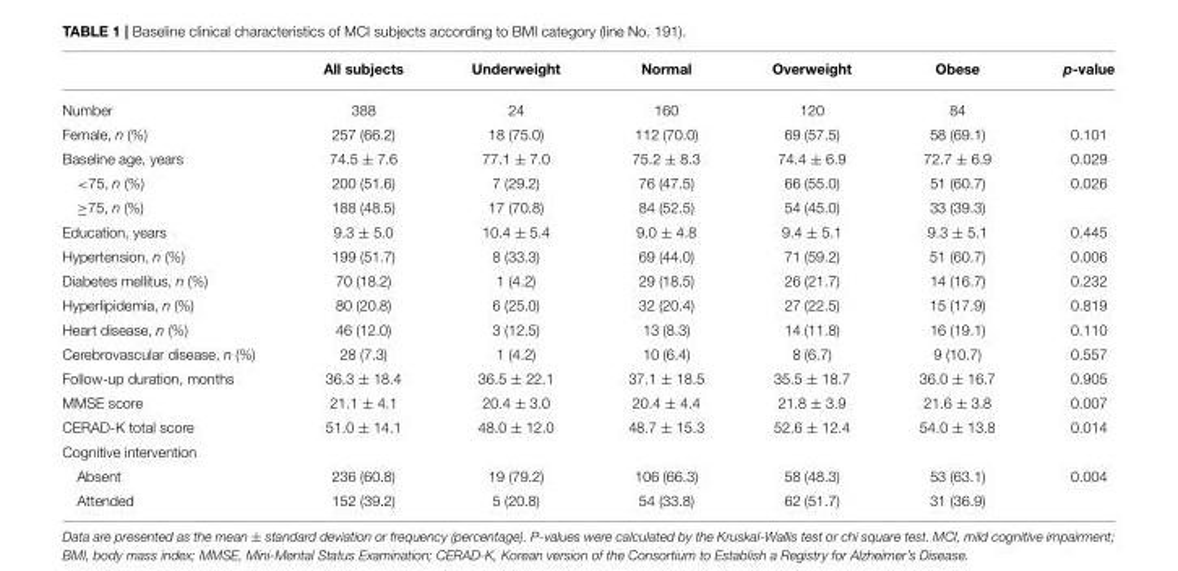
<table><thead><tr><td></td><td>All subjects</td><td>Underweight</td><td>Normal</td><td>Overweight</td><td>Obese</td><td>p-value</td></tr></thead><tbody><tr><td>Number</td><td>388</td><td>24</td><td>160</td><td>120</td><td>84</td><td></td></tr><tr><td>Female, n (%)</td><td>257 (66.2)</td><td>18 (75.0)</td><td>112 (70.0)</td><td>69 (57.5)</td><td>58 (69.1)</td><td>0.101</td></tr><tr><td>Baseline age, years</td><td>74.5 ± 7.6</td><td>77.1 ± 7.0</td><td>75.2 ± 8.3</td><td>74.4 ± 6.9</td><td>72.7 ± 6.9</td><td>0.029</td></tr><tr><td>&lt;75, n (%)</td><td>200 (51.6)</td><td>7 (29.2)</td><td>76 (47.5)</td><td>66 (55.0)</td><td>51 (60.7)</td><td>0.026</td></tr><tr><td>≥75, n (%)</td><td>188 (48.5)</td><td>17 (70.8)</td><td>84 (52.5)</td><td>54 (45.0)</td><td>33 (39.3)</td><td></td></tr><tr><td>Education, years</td><td>9.3 ± 5.0</td><td>10.4 ± 5.4</td><td>9.0 ± 4.8</td><td>9.4 ± 5.1</td><td>9.3 ± 5.1</td><td>0.445</td></tr><tr><td>Hypertension, n (%)</td><td>199 (51.7)</td><td>8 (33.3)</td><td>69 (44.0)</td><td>71 (59.2)</td><td>51 (60.7)</td><td>0.006</td></tr><tr><td>Diabetes mellitus, n (%)</td><td>70 (18.2)</td><td>1 (4.2)</td><td>29 (18.5)</td><td>26 (21.7)</td><td>14 (16.7)</td><td>0.232</td></tr><tr><td>Hyperlipidemia, n (%)</td><td>80 (20.8)</td><td>6 (25.0)</td><td>32 (20.4)</td><td>27 (22.5)</td><td>15 (17.9)</td><td>0.819</td></tr><tr><td>Heart disease, n (%)</td><td>46 (12.0)</td><td>3 (12.5)</td><td>13 (8.3)</td><td>14 (11.8)</td><td>16 (19.1)</td><td>0.110</td></tr><tr><td>Cerebrovascular disease, n (%)</td><td>28 (7.3)</td><td>1 (4.2)</td><td>10 (6.4)</td><td>8 (6.7)</td><td>9 (10.7)</td><td>0.557</td></tr><tr><td>Follow-up duration, months</td><td>36.3 ± 18.4</td><td>36.5 ± 22.1</td><td>37.1 ± 18.5</td><td>35.5 ± 18.7</td><td>36.0 ± 16.7</td><td>0.905</td></tr><tr><td>MMSE score</td><td>21.1 ± 4.1</td><td>20.4 ± 3.0</td><td>20.4 ± 4.4</td><td>21.8 ± 3.9</td><td>21.6 ± 3.8</td><td>0.007</td></tr><tr><td>CERAD-K total score</td><td>51.0 ± 14.1</td><td>48.0 ± 12.0</td><td>48.7 ± 15.3</td><td>52.6 ± 12.4</td><td>54.0 ± 13.8</td><td>0.014</td></tr><tr><td colspan="7">Cognitive intervention</td></tr><tr><td>Absent</td><td>236 (60.8)</td><td>19 (79.2)</td><td>106 (66.3)</td><td>58 (48.3)</td><td>53 (63.1)</td><td>0.004</td></tr><tr><td>Attended</td><td>152 (39.2)</td><td>5 (20.8)</td><td>54 (33.8)</td><td>62 (51.7)</td><td>31 (36.9)</td><td></td></tr></tbody></table>